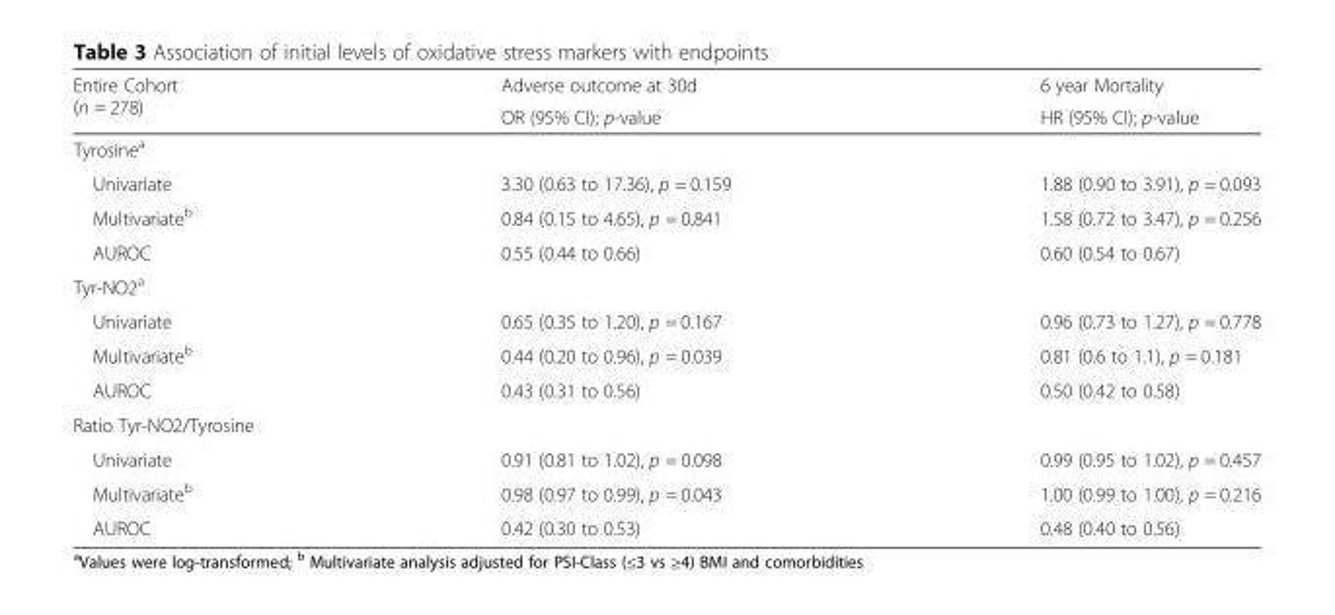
<table><thead><tr><td rowspan="2">Entire Cohort (n = 278)</td><td rowspan="2">Adverse outcome at 30d OR (95% CI); p-value</td><td rowspan="2">6 year Mortality HR (95% CI); p-value</td></tr><tr></tr></thead><tbody><tr><td colspan="3">Tyrosine<sup>a</sup></td></tr><tr><td>Univariate</td><td>3.30 (0.63 to 17.36), p = 0.159</td><td>1.88 (0.90 to 3.91), p = 0.093</td></tr><tr><td>Multivariate<sup>b</sup></td><td>0.84 (0.15 to 4.65), p = 0.841</td><td>1.58 (0.72 to 3.47), p = 0.256</td></tr><tr><td>AUROC</td><td>0.55 (0.44 to 0.66)</td><td>0.60 (0.54 to 0.67)</td></tr><tr><td colspan="3">Tyr-NO2<sup>a</sup></td></tr><tr><td>Univariate</td><td>0.65 (0.35 to 1.20), p = 0.167</td><td>0.96 (0.73 to 1.27), p = 0.778</td></tr><tr><td>Multivariate<sup>b</sup></td><td>0.44 (0.20 to 0.96), p = 0.039</td><td>0.81 (0.6 to 1.1), p = 0.181</td></tr><tr><td>AUROC</td><td>0.43 (0.31 to 0.56)</td><td>0.50 (0.42 to 0.58)</td></tr><tr><td colspan="3">Ratio Tyr-NO2/Tyrosine</td></tr><tr><td>Univariate</td><td>0.91 (0.81 to 1.02), p = 0.098</td><td>0.99 (0.95 to 1.02), p = 0.457</td></tr><tr><td>Multivariate<sup>b</sup></td><td>0.98 (0.97 to 0.99), p = 0.043</td><td>1.00 (0.99 to 1.00), p = 0.216</td></tr><tr><td>AUROC</td><td>0.42 (0.30 to 0.53)</td><td>0.48 (0.40 to 0.56)</td></tr></tbody></table>